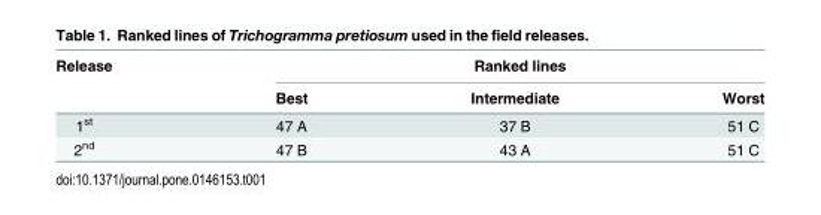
<table><thead><tr><td rowspan="2">Release</td><td colspan="3">Ranked lines</td></tr><tr><td>Best</td><td>Intermediate</td><td>Worst</td></tr></thead><tbody><tr><td>1<sup>st</sup></td><td>47 A</td><td>37 B</td><td>51 C</td></tr><tr><td>2<sup>nd</sup></td><td>47 B</td><td>43 A</td><td>51 C</td></tr></tbody></table>